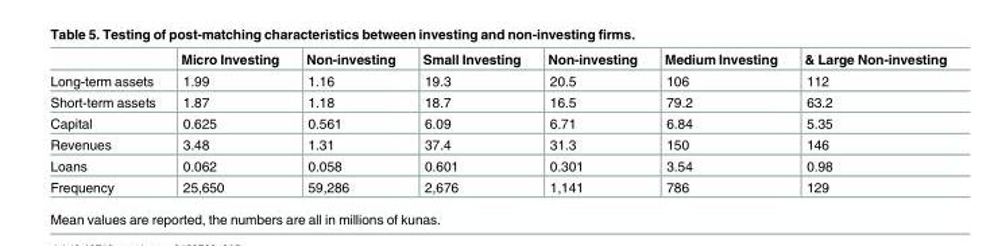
<table><thead><tr><td></td><td>Micro Investing</td><td>Non-investing</td><td>Small Investing</td><td>Non-investing</td><td>Medium Investing</td><td>&amp; Large Non-investing</td></tr></thead><tbody><tr><td>Long-term assets</td><td>1.99</td><td>1.16</td><td>19.3</td><td>20.5</td><td>106</td><td>112</td></tr><tr><td>Short-term assets</td><td>1.87</td><td>1.18</td><td>18.7</td><td>16.5</td><td>79.2</td><td>63.2</td></tr><tr><td>Capital</td><td>0.625</td><td>0.561</td><td>6.09</td><td>6.71</td><td>6.84</td><td>5.35</td></tr><tr><td>Revenues</td><td>3.48</td><td>1.31</td><td>37.4</td><td>31.3</td><td>150</td><td>146</td></tr><tr><td>Loans</td><td>0.062</td><td>0.058</td><td>0.601</td><td>0.301</td><td>3.54</td><td>0.98</td></tr><tr><td>Frequency</td><td>25,650</td><td>59,286</td><td>2,676</td><td>1,141</td><td>786</td><td>129</td></tr></tbody></table>